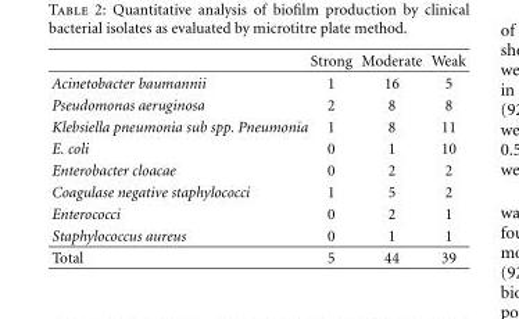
<table><thead><tr><td></td><td>Strong</td><td>Moderate</td><td>Weak</td></tr></thead><tbody><tr><td>Acinetobacter baumannii</td><td>1</td><td>16</td><td>5</td></tr><tr><td>Pseudomonas aeruginosa</td><td>2</td><td>8</td><td>8</td></tr><tr><td>Klebsiella pneumonia sub spp. Pneumonia</td><td>1</td><td>8</td><td>11</td></tr><tr><td>E. coli</td><td>0</td><td>1</td><td>10</td></tr><tr><td>Enterobacter cloacae</td><td>0</td><td>2</td><td>2</td></tr><tr><td>Coagulase negative staphylococci</td><td>1</td><td>5</td><td>2</td></tr><tr><td>Enterococci</td><td>0</td><td>2</td><td>1</td></tr><tr><td>Staphylococcus aureus</td><td>0</td><td>1</td><td>1</td></tr><tr><td>Total</td><td>5</td><td>44</td><td>39</td></tr></tbody></table>